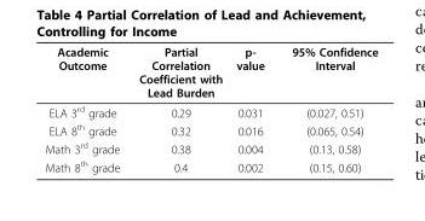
<table><thead><tr><td>Academic Outcome</td><td>Partial Correlation Coefficient with Lead Burden</td><td>p- value</td><td>95% Confidence Interval</td></tr></thead><tbody><tr><td>ELA 3<sup>rd</sup> grade</td><td>0.29</td><td>0.031</td><td>(0.027, 0.51)</td></tr><tr><td>ELA 8<sup>th</sup> grade</td><td>0.32</td><td>0.016</td><td>(0.065, 0.54)</td></tr><tr><td>Math 3<sup>rd</sup> grade</td><td>0.38</td><td>0.004</td><td>(0.13, 0.58)</td></tr><tr><td>Math 8<sup>th</sup> grade</td><td>0.4</td><td>0.002</td><td>(0.15, 0.60)</td></tr></tbody></table>